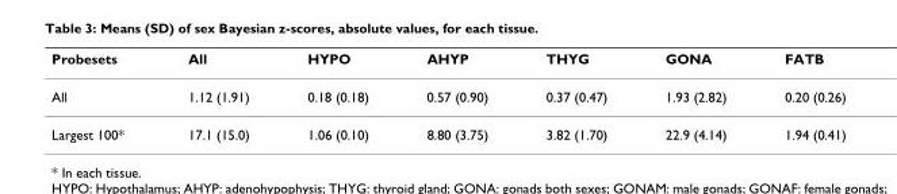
<table><thead><tr><td>Probesets</td><td>All</td><td>HYPO</td><td>AHYP</td><td>THYG</td><td>GONA</td><td>FATB</td></tr></thead><tbody><tr><td>All</td><td>1.12 (1.91)</td><td>0.18 (0.18)</td><td>0.57 (0.90)</td><td>0.37 (0.47)</td><td>1.93 (2.82)</td><td>0.20 (0.26)</td></tr><tr><td>Largest 100*</td><td>17.1 (15.0)</td><td>1.06 (0.10)</td><td>8.80 (3.75)</td><td>3.82 (1.70)</td><td>22.9 (4.14)</td><td>1.94 (0.41)</td></tr></tbody></table>